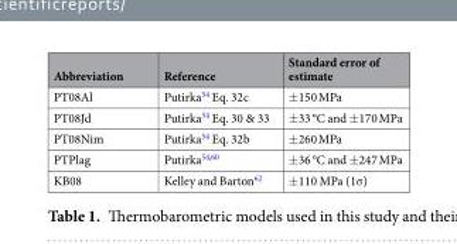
<table><thead><tr><td>Abbreviation</td><td>Reference</td><td>Standard error of estimate</td></tr></thead><tbody><tr><td>PT08Al</td><td>Putirka<sup>54</sup> Eq. 32c</td><td>±150 MPa</td></tr><tr><td>PT08Jd</td><td>Putirka<sup>54</sup> Eq. 30 &amp; 33</td><td>±33 °C and ±170 MPa</td></tr><tr><td>PT08Nim</td><td>Putirka<sup>54</sup> Eq. 32b</td><td>±260 MPa</td></tr><tr><td>PTPlag</td><td>Putirka<sup>54,60</sup></td><td>±36 °C and ±247 MPa</td></tr><tr><td>KB08</td><td>Kelley and Barton<sup>62</sup></td><td>±110 MPa (1σ)</td></tr></tbody></table>